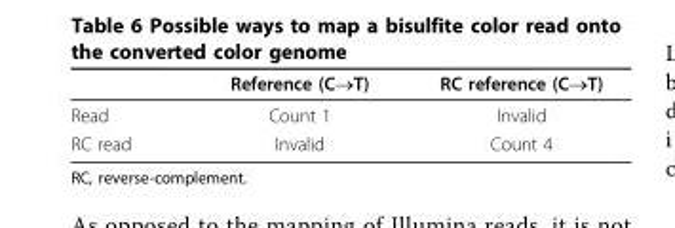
<table><thead><tr><td></td><td>Reference (C→T)</td><td>RC reference (C→T)</td></tr></thead><tbody><tr><td>Read</td><td>Count 1</td><td>Invalid</td></tr><tr><td>RC read</td><td>Invalid</td><td>Count 4</td></tr></tbody></table>